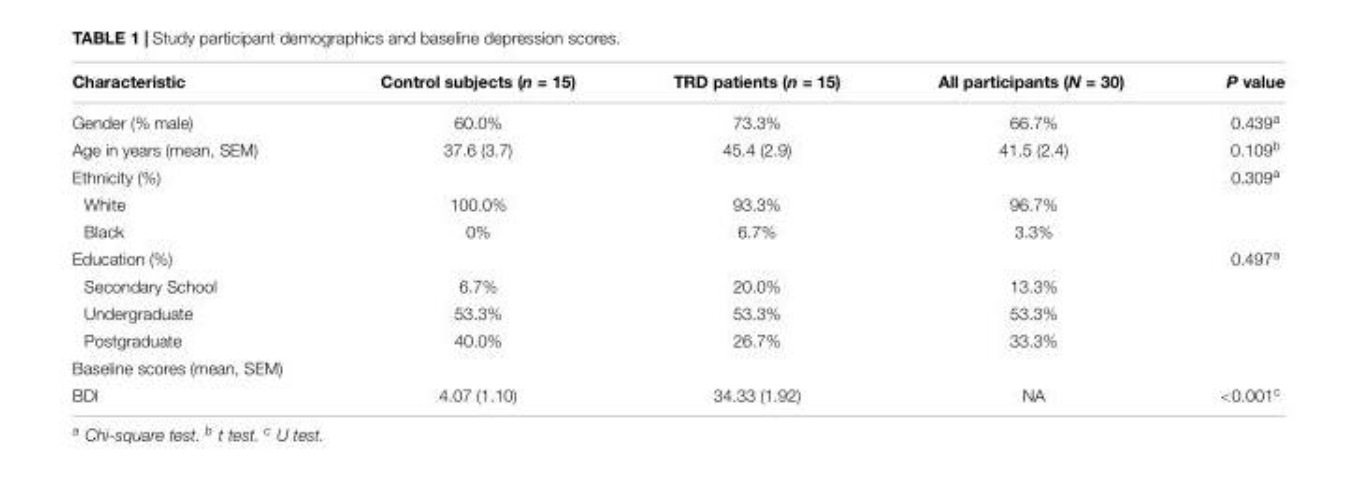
<table><thead><tr><td>Characteristic</td><td>Control subjects (n = 15)</td><td>TRD patients (n = 15)</td><td>All participants (N = 30)</td><td>P value</td></tr></thead><tbody><tr><td>Gender (% male)</td><td>60.0%</td><td>73.3%</td><td>66.7%</td><td>0.439<sup>a</sup></td></tr><tr><td>Age in years (mean, SEM)</td><td>37.6 (3.7)</td><td>45.4 (2.9)</td><td>41.5 (2.4)</td><td>0.109<sup>b</sup></td></tr><tr><td>Ethnicity (%)</td><td></td><td></td><td></td><td>0.309<sup>a</sup></td></tr><tr><td>White</td><td>100.0%</td><td>93.3%</td><td>96.7%</td><td></td></tr><tr><td>Black</td><td>0%</td><td>6.7%</td><td>3.3%</td><td></td></tr><tr><td>Education (%)</td><td></td><td></td><td></td><td>0.497<sup>a</sup></td></tr><tr><td>Secondary School</td><td>6.7%</td><td>20.0%</td><td>13.3%</td><td></td></tr><tr><td>Undergraduate</td><td>53.3%</td><td>53.3%</td><td>53.3%</td><td></td></tr><tr><td>Postgraduate</td><td>40.0%</td><td>26.7%</td><td>33.3%</td><td></td></tr><tr><td colspan="5">Baseline scores (mean, SEM)</td></tr><tr><td>BDI</td><td>4.07 (1.10)</td><td>34.33 (1.92)</td><td>NA</td><td>&lt;0.001<sup>c</sup></td></tr></tbody></table>